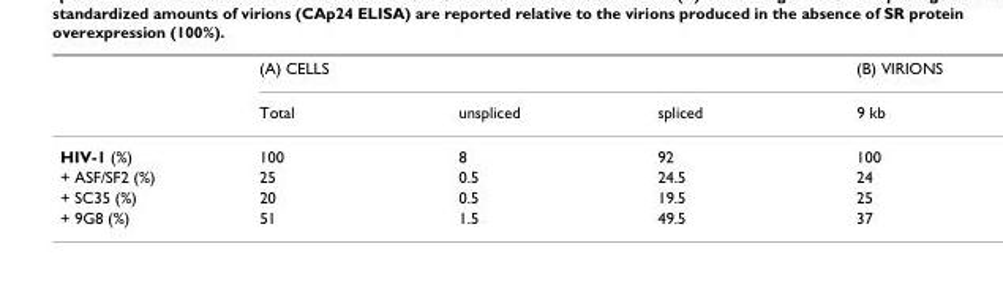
<table><thead><tr><td rowspan="2"></td><td colspan="3">(A) CELLS</td><td rowspan="2">(B) VIRIONS 9 kb</td></tr><tr><td>Total</td><td>unspliced</td><td>spliced</td></tr></thead><tbody><tr><td>HIV-1 (%)</td><td>100</td><td>8</td><td>92</td><td>100</td></tr><tr><td>+ ASF/SF2 (%)</td><td>25</td><td>0.5</td><td>24.5</td><td>24</td></tr><tr><td>+ SC35 (%)</td><td>20</td><td>0.5</td><td>19.5</td><td>25</td></tr><tr><td>+ 9G8 (%)</td><td>51</td><td>1.5</td><td>49.5</td><td>37</td></tr></tbody></table>